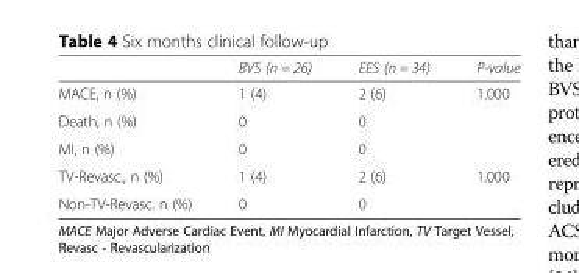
<table><thead><tr><td></td><td>BVS (n = 26)</td><td>EES (n = 34)</td><td>P-value</td></tr></thead><tbody><tr><td>MACE, n (%)</td><td>1 (4)</td><td>2 (6)</td><td>1.000</td></tr><tr><td>Death, n (%)</td><td>0</td><td>0</td><td></td></tr><tr><td>MI, n (%)</td><td>0</td><td>0</td><td></td></tr><tr><td>TV-Revasc., n (%)</td><td>1 (4)</td><td>2 (6)</td><td>1.000</td></tr><tr><td>Non-TV-Revasc. n (%)</td><td>0</td><td>0</td><td></td></tr></tbody></table>